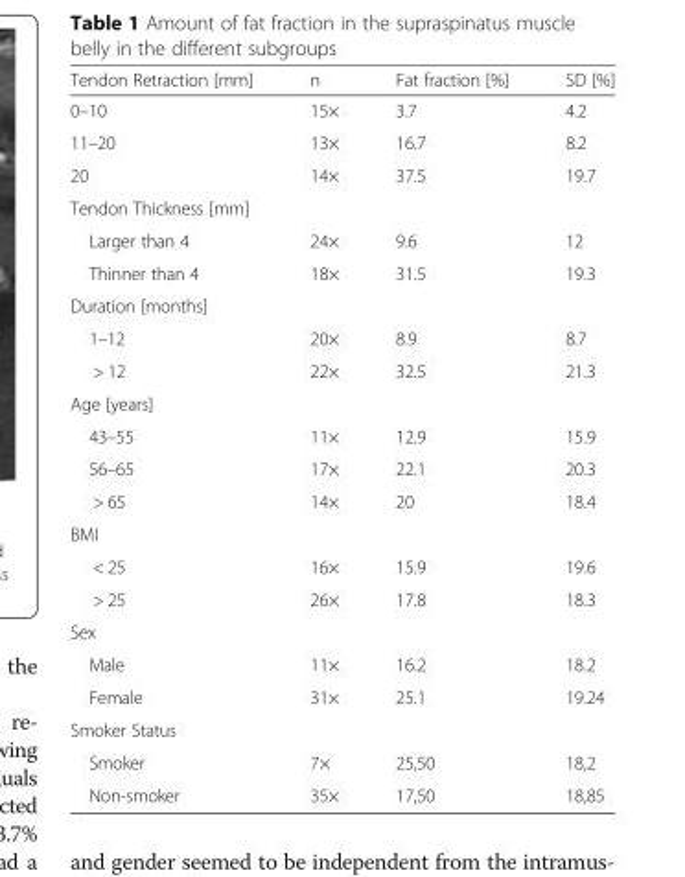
<table><thead><tr><td>Tendon Retraction [mm]</td><td>n</td><td>Fat fraction [%]</td><td>SD [%]</td></tr></thead><tbody><tr><td>0–10</td><td>15×</td><td>3.7</td><td>4.2</td></tr><tr><td>11–20</td><td>13×</td><td>16.7</td><td>8.2</td></tr><tr><td>20</td><td>14×</td><td>37.5</td><td>19.7</td></tr><tr><td colspan="4">Tendon Thickness [mm]</td></tr><tr><td>Larger than 4</td><td>24×</td><td>9.6</td><td>12</td></tr><tr><td>Thinner than 4</td><td>18×</td><td>31.5</td><td>19.3</td></tr><tr><td colspan="4">Duration [months]</td></tr><tr><td>1–12</td><td>20×</td><td>8.9</td><td>8.7</td></tr><tr><td>&gt; 12</td><td>22×</td><td>32.5</td><td>21.3</td></tr><tr><td colspan="4">Age [years]</td></tr><tr><td>43–55</td><td>11×</td><td>12.9</td><td>15.9</td></tr><tr><td>56–65</td><td>17×</td><td>22.1</td><td>20.3</td></tr><tr><td>&gt; 65</td><td>14×</td><td>20</td><td>18.4</td></tr><tr><td colspan="4">BMI</td></tr><tr><td>&lt; 25</td><td>16×</td><td>15.9</td><td>19.6</td></tr><tr><td>&gt; 25</td><td>26×</td><td>17.8</td><td>18.3</td></tr><tr><td colspan="4">Sex</td></tr><tr><td>Male</td><td>11×</td><td>16.2</td><td>18.2</td></tr><tr><td>Female</td><td>31×</td><td>25.1</td><td>19.24</td></tr><tr><td colspan="4">Smoker Status</td></tr><tr><td>Smoker</td><td>7×</td><td>25,50</td><td>18,2</td></tr><tr><td>Non-smoker</td><td>35×</td><td>17,50</td><td>18,85</td></tr></tbody></table>